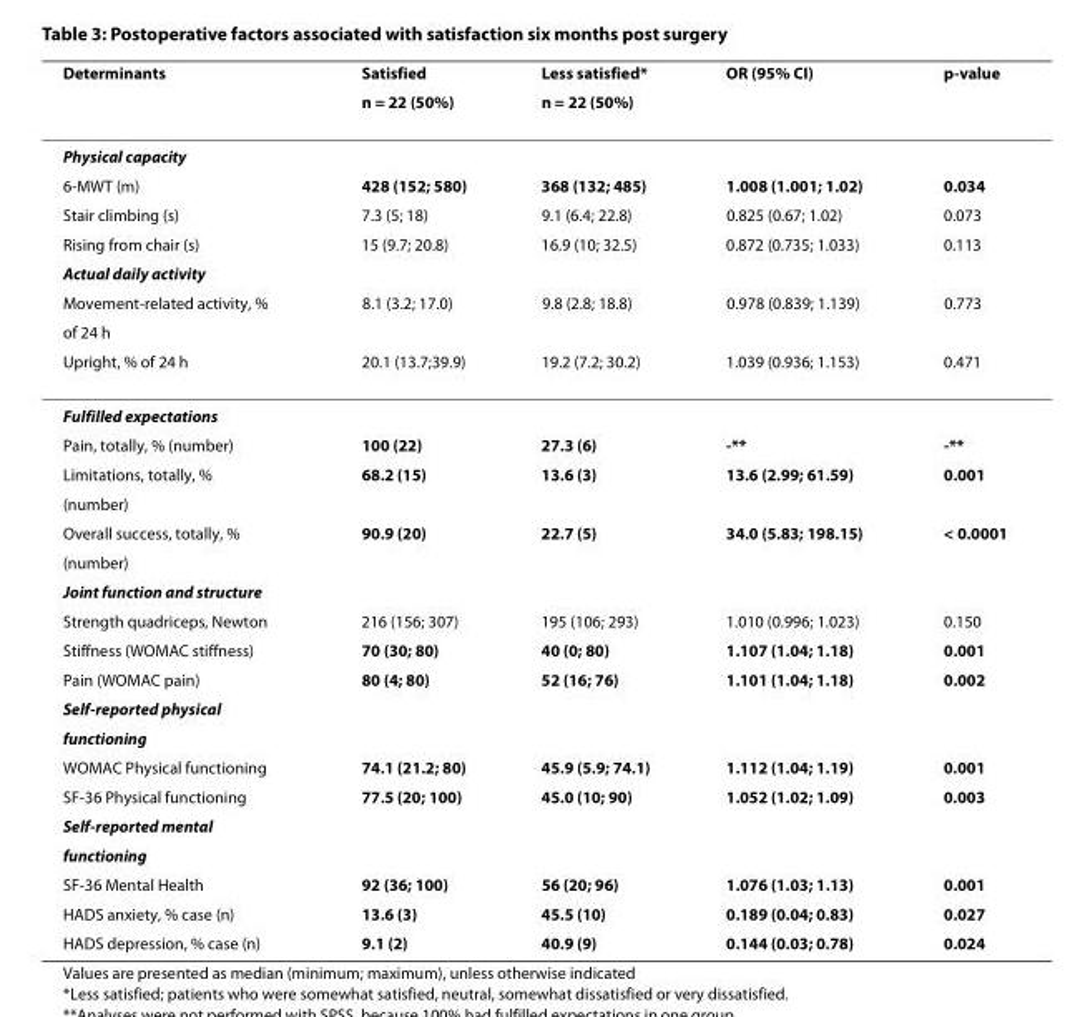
<table><thead><tr><td rowspan="2">Determinants</td><td rowspan="2">Satisfied n = 22 (50%)</td><td rowspan="2">Less satisfied* n = 22 (50%)</td><td rowspan="2">OR (95% CI)</td><td rowspan="2">p-value</td></tr><tr></tr></thead><tbody><tr><td colspan="5">Physical capacity</td></tr><tr><td>6-MWT (m)</td><td>428 (152; 580)</td><td>368 (132; 485)</td><td>1.008 (1.001; 1.02)</td><td>0.034</td></tr><tr><td>Stair climbing (s)</td><td>7.3 (5; 18)</td><td>9.1 (6.4; 22.8)</td><td>0.825 (0.67; 1.02)</td><td>0.073</td></tr><tr><td>Rising from chair (s)</td><td>15 (9.7; 20.8)</td><td>16.9 (10; 32.5)</td><td>0.872 (0.735; 1.033)</td><td>0.113</td></tr><tr><td colspan="5">Actual daily activity</td></tr><tr><td>Movement-related activity, %</td><td>8.1 (3.2; 17.0)</td><td>9.8 (2.8; 18.8)</td><td>0.978 (0.839; 1.139)</td><td>0.773</td></tr><tr><td colspan="5">of 24 h</td></tr><tr><td>Upright, % of 24 h</td><td>20.1 (13.7;39.9)</td><td>19.2 (7.2; 30.2)</td><td>1.039 (0.936; 1.153)</td><td>0.471</td></tr><tr><td colspan="5">Fulfilled expectations</td></tr><tr><td>Pain, totally, % (number)</td><td>100 (22)</td><td>27.3 (6)</td><td>-**</td><td>-**</td></tr><tr><td>Limitations, totally, %</td><td>68.2 (15)</td><td>13.6 (3)</td><td>13.6 (2.99; 61.59)</td><td>0.001</td></tr><tr><td colspan="5">(number)</td></tr><tr><td>Overall success, totally, %</td><td>90.9 (20)</td><td>22.7 (5)</td><td>34.0 (5.83; 198.15)</td><td>&lt; 0.0001</td></tr><tr><td colspan="5">(number)</td></tr><tr><td colspan="5">Joint function and structure</td></tr><tr><td>Strength quadriceps, Newton</td><td>216 (156; 307)</td><td>195 (106; 293)</td><td>1.010 (0.996; 1.023)</td><td>0.150</td></tr><tr><td>Stiffness (WOMAC stiffness)</td><td>70 (30; 80)</td><td>40 (0; 80)</td><td>1.107 (1.04; 1.18)</td><td>0.001</td></tr><tr><td>Pain (WOMAC pain)</td><td>80 (4; 80)</td><td>52 (16; 76)</td><td>1.101 (1.04; 1.18)</td><td>0.002</td></tr><tr><td colspan="5">Self-reported physical</td></tr><tr><td colspan="5">functioning</td></tr><tr><td>WOMAC Physical functioning</td><td>74.1 (21.2; 80)</td><td>45.9 (5.9; 74.1)</td><td>1.112 (1.04; 1.19)</td><td>0.001</td></tr><tr><td>SF-36 Physical functioning</td><td>77.5 (20; 100)</td><td>45.0 (10; 90)</td><td>1.052 (1.02; 1.09)</td><td>0.003</td></tr><tr><td colspan="5">Self-reported mental</td></tr><tr><td colspan="5">functioning</td></tr><tr><td>SF-36 Mental Health</td><td>92 (36; 100)</td><td>56 (20; 96)</td><td>1.076 (1.03; 1.13)</td><td>0.001</td></tr><tr><td>HADS anxiety, % case (n)</td><td>13.6 (3)</td><td>45.5 (10)</td><td>0.189 (0.04; 0.83)</td><td>0.027</td></tr><tr><td>HADS depression, % case (n)</td><td>9.1 (2)</td><td>40.9 (9)</td><td>0.144 (0.03; 0.78)</td><td>0.024</td></tr></tbody></table>